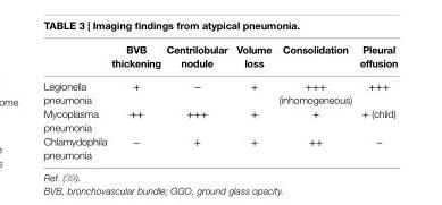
<table><thead><tr><td></td><td>BvB thickening</td><td>Centrilobular nodule</td><td>volume loss</td><td>Consolidation</td><td>Pleural effusion</td></tr></thead><tbody><tr><td>Legionella pneumonia</td><td>+</td><td>−</td><td>+</td><td>+++ (inhomogeneous)</td><td>+++</td></tr><tr><td>Mycoplasma pneumonia</td><td>++</td><td>+++</td><td>+</td><td>+</td><td>+ (child)</td></tr><tr><td>Chlamydophila pneumonia</td><td>−</td><td>+</td><td>+</td><td>++</td><td>−</td></tr></tbody></table>